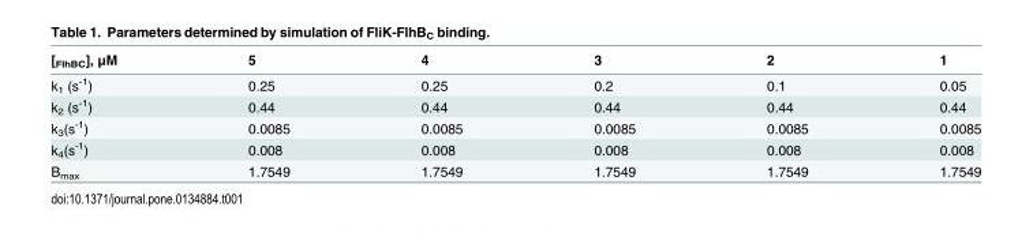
<table><thead><tr><td>[<sub>FlhBC</sub>], μM</td><td>5</td><td>4</td><td>3</td><td>2</td><td>1</td></tr></thead><tbody><tr><td>k<sub>1</sub> (s<sup>-1</sup>)</td><td>0.25</td><td>0.25</td><td>0.2</td><td>0.1</td><td>0.05</td></tr><tr><td>k<sub>2</sub> (s<sup>-1</sup>)</td><td>0.44</td><td>0.44</td><td>0.44</td><td>0.44</td><td>0.44</td></tr><tr><td>k<sub>3</sub>(s<sup>-1</sup>)</td><td>0.0085</td><td>0.0085</td><td>0.0085</td><td>0.0085</td><td>0.0085</td></tr><tr><td>k<sub>4</sub>(s<sup>-1</sup>)</td><td>0.008</td><td>0.008</td><td>0.008</td><td>0.008</td><td>0.008</td></tr><tr><td>B<sub>max</sub></td><td>1.7549</td><td>1.7549</td><td>1.7549</td><td>1.7549</td><td>1.7549</td></tr></tbody></table>